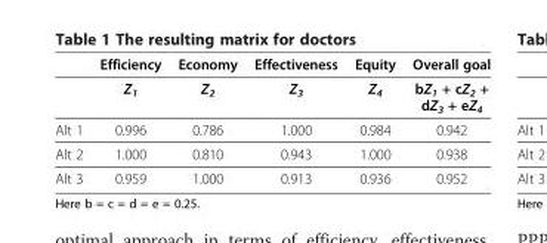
<table><thead><tr><td></td><td>Efficiency</td><td>Economy</td><td>Effectiveness</td><td>Equity</td><td>Overall goal</td></tr></thead><tbody><tr><td></td><td>Z<sub>1</sub></td><td>Z<sub>2</sub></td><td>Z<sub>3</sub></td><td>Z<sub>4</sub></td><td>bZ1 + cZ2 + dZ3 + eZ4</td></tr><tr><td>Alt 1</td><td>0.996</td><td>0.786</td><td>1.000</td><td>0.984</td><td>0.942</td></tr><tr><td>Alt 2</td><td>1.000</td><td>0.810</td><td>0.943</td><td>1.000</td><td>0.938</td></tr><tr><td>Alt 3</td><td>0.959</td><td>1.000</td><td>0.913</td><td>0.936</td><td>0.952</td></tr></tbody></table>